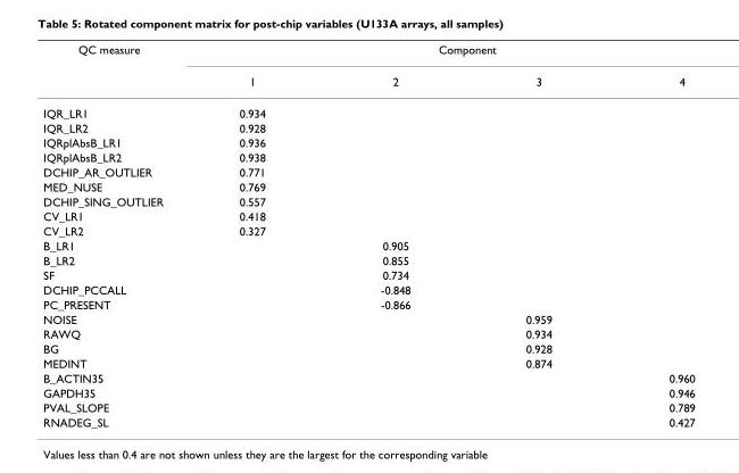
<table><thead><tr><td rowspan="2">QC measure</td><td colspan="4">Component</td></tr><tr><td>1</td><td>2</td><td>3</td><td>4</td></tr></thead><tbody><tr><td>IQR_LR1</td><td>0.934</td><td></td><td></td><td></td></tr><tr><td>IQR_LR2</td><td>0.928</td><td></td><td></td><td></td></tr><tr><td>IQRplAbsB_LR1</td><td>0.936</td><td></td><td></td><td></td></tr><tr><td>IQRplAbsB_LR2</td><td>0.938</td><td></td><td></td><td></td></tr><tr><td>DCHIP_AR_OUTLIER</td><td>0.771</td><td></td><td></td><td></td></tr><tr><td>MED_NUSE</td><td>0.769</td><td></td><td></td><td></td></tr><tr><td>DCHIP_SING_OUTLIER</td><td>0.557</td><td></td><td></td><td></td></tr><tr><td>CV_LR1</td><td>0.418</td><td></td><td></td><td></td></tr><tr><td>CV_LR2</td><td>0.327</td><td></td><td></td><td></td></tr><tr><td>B_LR1</td><td></td><td>0.905</td><td></td><td></td></tr><tr><td>B_LR2</td><td></td><td>0.855</td><td></td><td></td></tr><tr><td>SF</td><td></td><td>0.734</td><td></td><td></td></tr><tr><td>DCHIP_PCCALL</td><td></td><td>-0.848</td><td></td><td></td></tr><tr><td>PC_PRESENT</td><td></td><td>-0.866</td><td></td><td></td></tr><tr><td>NOISE</td><td></td><td></td><td>0.959</td><td></td></tr><tr><td>RAWQ</td><td></td><td></td><td>0.934</td><td></td></tr><tr><td>BG</td><td></td><td></td><td>0.928</td><td></td></tr><tr><td>MEDINT</td><td></td><td></td><td>0.874</td><td></td></tr><tr><td>B_ACTIN35</td><td></td><td></td><td></td><td>0.960</td></tr><tr><td>GAPDH35</td><td></td><td></td><td></td><td>0.946</td></tr><tr><td>PVAL_SLOPE</td><td></td><td></td><td></td><td>0.789</td></tr><tr><td>RNADEG_SL</td><td></td><td></td><td></td><td>0.427</td></tr></tbody></table>